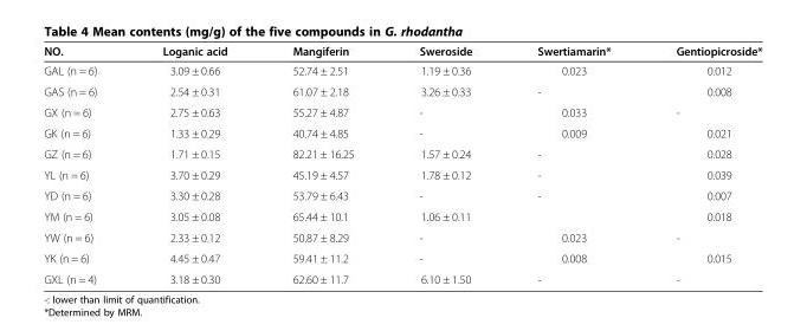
<table><thead><tr><td>NO.</td><td>Loganic acid</td><td>Mangiferin</td><td>Sweroside</td><td>Swertiamarin*</td><td>Gentiopicroside*</td></tr></thead><tbody><tr><td>GAL (n = 6)</td><td>3.09 ± 0.66</td><td>52.74 ± 2.51</td><td>1.19 ± 0.36</td><td>0.023</td><td>0.012</td></tr><tr><td>GAS (n = 6)</td><td>2.54 ± 0.31</td><td>61.07 ± 2.18</td><td>3.26 ± 0.33</td><td>-</td><td>0.008</td></tr><tr><td>GX (n = 6)</td><td>2.75 ± 0.63</td><td>55.27 ± 4.87</td><td>-</td><td>0.033</td><td>-</td></tr><tr><td>GK (n = 6)</td><td>1.33 ± 0.29</td><td>40.74 ± 4.85</td><td>-</td><td>0.009</td><td>0.021</td></tr><tr><td>GZ (n = 6)</td><td>1.71 ± 0.15</td><td>82.21 ± 16.25</td><td>1.57 ± 0.24</td><td>-</td><td>0.028</td></tr><tr><td>YL (n = 6)</td><td>3.70 ± 0.29</td><td>45.19 ± 4.57</td><td>1.78 ± 0.12</td><td>-</td><td>0.039</td></tr><tr><td>YD (n = 6)</td><td>3.30 ± 0.28</td><td>53.79 ± 6.43</td><td>-</td><td>-</td><td>0.007</td></tr><tr><td>YM (n = 6)</td><td>3.05 ± 0.08</td><td>65.44 ± 10.1</td><td>1.06 ± 0.11</td><td></td><td>0.018</td></tr><tr><td>YW (n = 6)</td><td>2.33 ± 0.12</td><td>50.87 ± 8.29</td><td>-</td><td>0.023</td><td>-</td></tr><tr><td>YK (n = 6)</td><td>4.45 ± 0.47</td><td>59.41 ± 11.2</td><td>-</td><td>0.008</td><td>0.015</td></tr><tr><td>GXL (n = 4)</td><td>3.18 ± 0.30</td><td>62.60 ± 11.7</td><td>6.10 ± 1.50</td><td>-</td><td>-</td></tr></tbody></table>